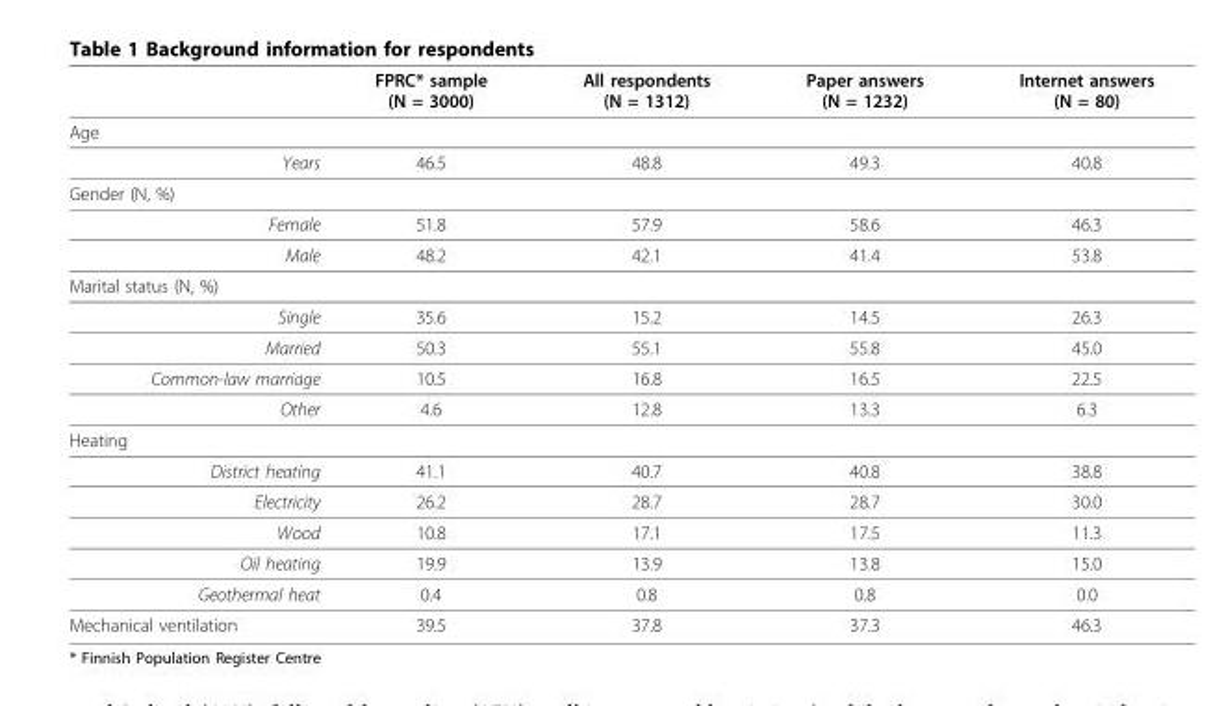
<table><thead><tr><td></td><td>FPRC* sample (N = 3000)</td><td>All respondents (N = 1312)</td><td>Paper answers (N = 1232)</td><td>Internet answers (N = 80)</td></tr></thead><tbody><tr><td colspan="5">Age</td></tr><tr><td>Years</td><td>46.5</td><td>48.8</td><td>49.3</td><td>40.8</td></tr><tr><td colspan="5">Gender (N, %)</td></tr><tr><td>Female</td><td>51.8</td><td>57.9</td><td>58.6</td><td>46.3</td></tr><tr><td>Male</td><td>48.2</td><td>42.1</td><td>41.4</td><td>53.8</td></tr><tr><td colspan="5">Marital status (N, %)</td></tr><tr><td>Single</td><td>35.6</td><td>15.2</td><td>14.5</td><td>26.3</td></tr><tr><td>Married</td><td>50.3</td><td>55.1</td><td>55.8</td><td>45.0</td></tr><tr><td>Common-law marriage</td><td>10.5</td><td>16.8</td><td>16.5</td><td>22.5</td></tr><tr><td>Other</td><td>4.6</td><td>12.8</td><td>13.3</td><td>6.3</td></tr><tr><td colspan="5">Heating</td></tr><tr><td>District heating</td><td>41.1</td><td>40.7</td><td>40.8</td><td>38.8</td></tr><tr><td>Electricity</td><td>26.2</td><td>28.7</td><td>28.7</td><td>30.0</td></tr><tr><td>Wood</td><td>10.8</td><td>17.1</td><td>17.5</td><td>11.3</td></tr><tr><td>Oil heating</td><td>19.9</td><td>13.9</td><td>13.8</td><td>15.0</td></tr><tr><td>Geothermal heat</td><td>0.4</td><td>0.8</td><td>0.8</td><td>0.0</td></tr><tr><td>Mechanical ventilation</td><td>39.5</td><td>37.8</td><td>37.3</td><td>46.3</td></tr></tbody></table>